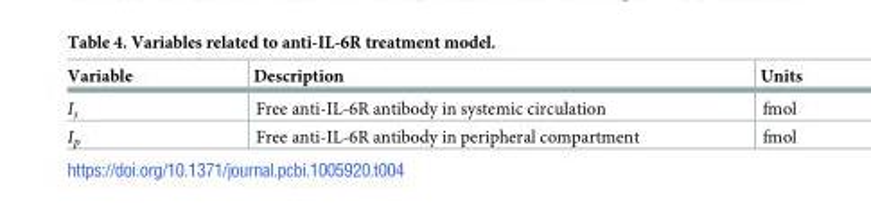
<table><thead><tr><td>Variable</td><td>Description</td><td>Units</td></tr></thead><tbody><tr><td>I<sub>s</sub></td><td>Free anti-IL-6R antibody in systemic circulation</td><td>fmol</td></tr><tr><td>I<sub>p</sub></td><td>Free anti-IL-6R antibody in peripheral compartment</td><td>fmol</td></tr></tbody></table>